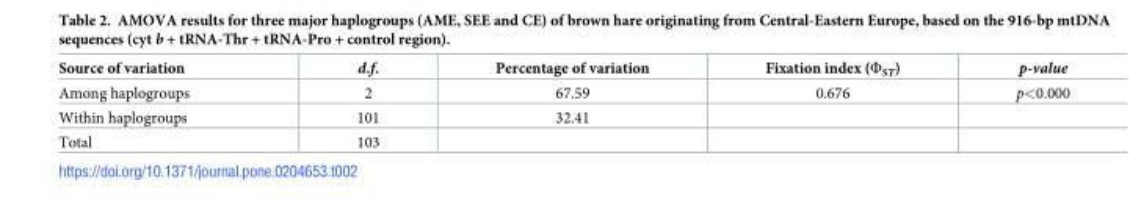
<table><thead><tr><td>Source of variation</td><td>d.f.</td><td>Percentage of variation</td><td>Fixation index (Φ<sub>ST</sub>)</td><td>p-value</td></tr></thead><tbody><tr><td>Among haplogroups</td><td>2</td><td>67.59</td><td>0.676</td><td>p&lt;0.000</td></tr><tr><td>Within haplogroups</td><td>101</td><td>32.41</td><td></td><td></td></tr><tr><td>Total</td><td>103</td><td></td><td></td><td></td></tr></tbody></table>